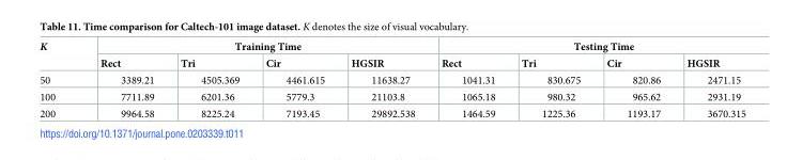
<table><thead><tr><td rowspan="2">K</td><td colspan="4">Training Time</td><td colspan="4">Testing Time</td></tr><tr><td>Rect</td><td>Tri</td><td>Cir</td><td>HGSIR</td><td>Rect</td><td>Tri</td><td>Cir</td><td>HGSIR</td></tr></thead><tbody><tr><td>50</td><td>3389.21</td><td>4505.369</td><td>4461.615</td><td>11638.27</td><td>1041.31</td><td>830.675</td><td>820.86</td><td>2471.15</td></tr><tr><td>100</td><td>7711.89</td><td>6201.36</td><td>5779.3</td><td>21103.8</td><td>1065.18</td><td>980.32</td><td>965.62</td><td>2931.19</td></tr><tr><td>200</td><td>9964.58</td><td>8225.24</td><td>7193.45</td><td>29892.538</td><td>1464.59</td><td>1225.36</td><td>1193.17</td><td>3670.315</td></tr></tbody></table>